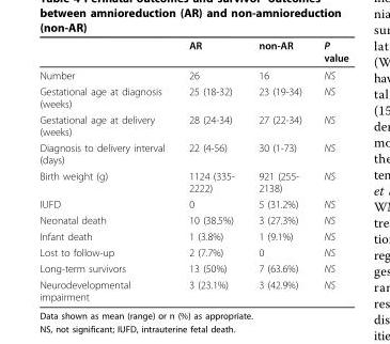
<table><thead><tr><td></td><td>AR</td><td>non-AR</td><td>P value</td></tr></thead><tbody><tr><td>Number</td><td>26</td><td>16</td><td>NS</td></tr><tr><td>Gestational age at diagnosis (weeks)</td><td>25 (18-32)</td><td>23 (19-34)</td><td>NS</td></tr><tr><td>Gestational age at delivery (weeks)</td><td>28 (24-34)</td><td>27 (22-34)</td><td>NS</td></tr><tr><td>Diagnosis to delivery interval (days)</td><td>22 (4-56)</td><td>30 (1-73)</td><td>NS</td></tr><tr><td>Birth weight (g)</td><td>1124 (335- 2222)</td><td>921 (255- 2138)</td><td>NS</td></tr><tr><td>IUFD</td><td>0</td><td>5 (31.2%)</td><td>NS</td></tr><tr><td>Neonatal death</td><td>10 (38.5%)</td><td>3 (27.3%)</td><td>NS</td></tr><tr><td>Infant death</td><td>1 (3.8%)</td><td>1 (9.1%)</td><td>NS</td></tr><tr><td>Lost to follow-up</td><td>2 (7.7%)</td><td>0</td><td>NS</td></tr><tr><td>Long-term survivors</td><td>13 (50%)</td><td>7 (63.6%)</td><td>NS</td></tr><tr><td>Neurodevelopmental impairment</td><td>3 (23.1%)</td><td>3 (42.9%)</td><td>NS</td></tr></tbody></table>